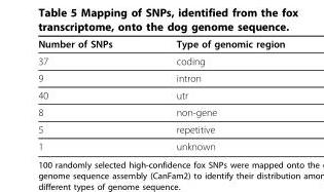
<table><thead><tr><td>Number of SNPs</td><td>Type of genomic region</td></tr></thead><tbody><tr><td>37</td><td>coding</td></tr><tr><td>9</td><td>intron</td></tr><tr><td>40</td><td>utr</td></tr><tr><td>8</td><td>non-gene</td></tr><tr><td>5</td><td>repetitive</td></tr><tr><td>1</td><td>unknown</td></tr></tbody></table>